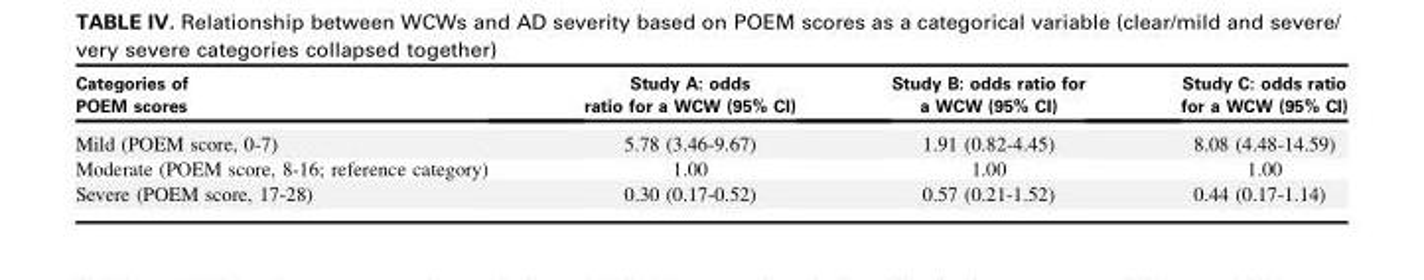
<table><thead><tr><td>Categories of POEM scores</td><td>Study A: odds ratio for a WCW (95% CI)</td><td>Study B: odds ratio for a WCW (95% CI)</td><td>Study C: odds ratio for a WCW (95% CI)</td></tr></thead><tbody><tr><td>Mild (POEM score, 0-7)</td><td>5.78 (3.46-9.67)</td><td>1.91 (0.82-4.45)</td><td>8.08 (4.48-14.59)</td></tr><tr><td>Moderate (POEM score, 8-16; reference category)</td><td>1.00</td><td>1.00</td><td>1.00</td></tr><tr><td>Severe (POEM score, 17-28)</td><td>0.30 (0.17-0.52)</td><td>0.57 (0.21-1.52)</td><td>0.44 (0.17-1.14)</td></tr></tbody></table>